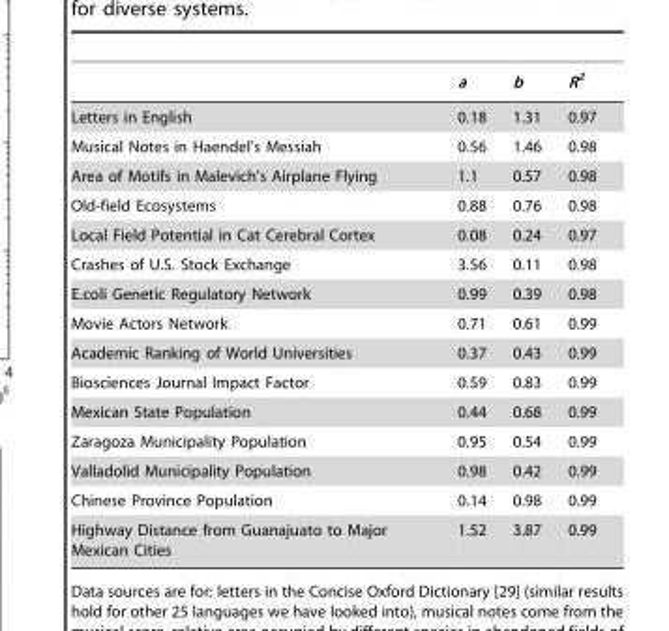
<table><thead><tr><td></td><td>a</td><td>b</td><td>R<sup>2</sup></td></tr></thead><tbody><tr><td>Letters in English</td><td>0.18</td><td>1.31</td><td>0.97</td></tr><tr><td>Musical Notes in Haendel’s Messiah</td><td>0.56</td><td>1.46</td><td>0.98</td></tr><tr><td>Area of Motifs in Malevich’s Airplane Flying</td><td>1.1</td><td>0.57</td><td>0.98</td></tr><tr><td>Old-field Ecosystems</td><td>0.88</td><td>0.76</td><td>0.98</td></tr><tr><td>Local Field Potential in Cat Cerebral Cortex</td><td>0.08</td><td>0.24</td><td>0.97</td></tr><tr><td>Crashes of U.S. Stock Exchange</td><td>3.56</td><td>0.11</td><td>0.98</td></tr><tr><td>E.coli Genetic Regulatory Network</td><td>0.99</td><td>0.39</td><td>0.98</td></tr><tr><td>Movie Actors Network</td><td>0.71</td><td>0.61</td><td>0.99</td></tr><tr><td>Academic Ranking of World Universities</td><td>0.37</td><td>0.43</td><td>0.99</td></tr><tr><td>Biosciences Journal Impact Factor</td><td>0.59</td><td>0.83</td><td>0.99</td></tr><tr><td>Mexican State Population</td><td>0.44</td><td>0.68</td><td>0.99</td></tr><tr><td>Zaragoza Municipality Population</td><td>0.95</td><td>0.54</td><td>0.99</td></tr><tr><td>Valladolid Municipality Population</td><td>0.98</td><td>0.42</td><td>0.99</td></tr><tr><td>Chinese Province Population</td><td>0.14</td><td>0.98</td><td>0.99</td></tr><tr><td>Highway Distance from Guanajuato to Major Mexican Cities</td><td>1.52</td><td>3.87</td><td>0.99</td></tr></tbody></table>